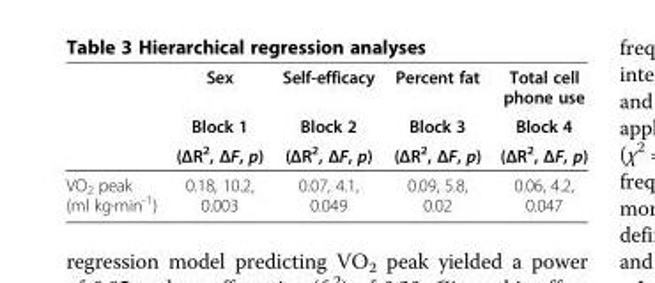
<table><thead><tr><td rowspan="3"></td><td rowspan="3">Sex Block 1 (ΔR<sup>2</sup>, ΔF, p)</td><td rowspan="3">Self-efficacy Block 2 (ΔR<sup>2</sup>, ΔF, p)</td><td rowspan="3">Percent fat Block 3 (ΔR<sup>2</sup>, ΔF, p)</td><td rowspan="3">Total cell phone use Block 4 (ΔR<sup>2</sup>, ΔF, p)</td></tr><tr></tr><tr></tr></thead><tbody><tr><td>VO<sub>2</sub> peak (ml kg·min<sup>-1</sup>)</td><td>0.18, 10.2, 0.003</td><td>0.07, 4.1, 0.049</td><td>0.09, 5.8, 0.02</td><td>0.06, 4.2, 0.047</td></tr></tbody></table>